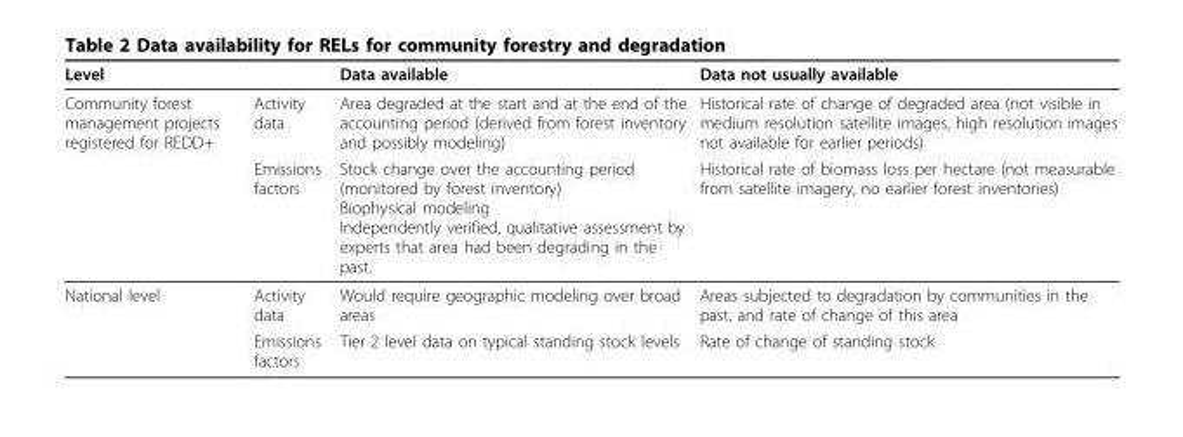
<table><thead><tr><td>Level</td><td></td><td>Data available</td><td>Data not usually available</td></tr></thead><tbody><tr><td rowspan="2">Community forest management projects registered for REDD+</td><td>Activity data</td><td>Area degraded at the start and at the end of the accounting period (derived from forest inventory and possibly modeling)</td><td>Historical rate of change of degraded area (not visible in medium resolution satellite images, high resolution images not available for earlier periods)</td></tr><tr><td>Emissions factors</td><td>Stock change over the accounting period (monitored by forest inventory) Biophysical modeling Independently verified, qualitative assessment by experts that area had been degrading in the past.</td><td>Historical rate of biomass loss per hectare (not measurable from satellite imagery, no earlier forest inventories)</td></tr><tr><td rowspan="2">National level</td><td>Activity data</td><td>Would require geographic modeling over broad areas</td><td>Areas subjected to degradation by communities in the past, and rate of change of this area</td></tr><tr><td>Emissions factors</td><td>Tier 2 level data on typical standing stock levels</td><td>Rate of change of standing stock</td></tr></tbody></table>